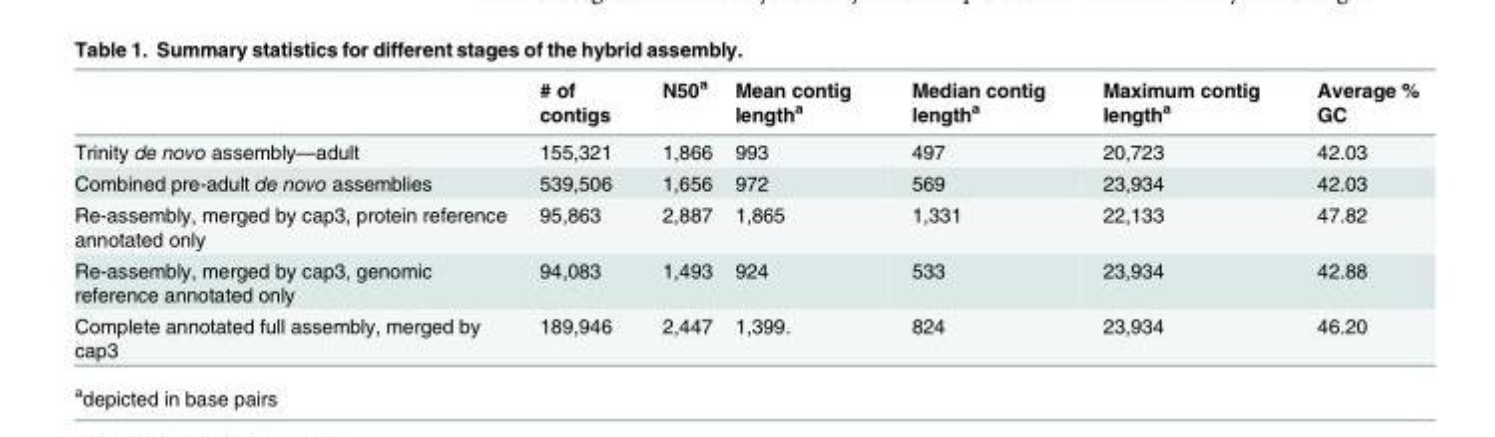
<table><thead><tr><td></td><td># of contigs</td><td>N50<sup>a</sup></td><td>Mean contig length<sup>a</sup></td><td>Median contig length<sup>a</sup></td><td>Maximum contig length<sup>a</sup></td><td>Average % GC</td></tr></thead><tbody><tr><td>Trinity de novo assembly—adult</td><td>155,321</td><td>1,866</td><td>993</td><td>497</td><td>20,723</td><td>42.03</td></tr><tr><td>Combined pre-adult de novo assemblies</td><td>539,506</td><td>1,656</td><td>972</td><td>569</td><td>23,934</td><td>42.03</td></tr><tr><td>Re-assembly, merged by cap3, protein reference annotated only</td><td>95,863</td><td>2,887</td><td>1,865</td><td>1,331</td><td>22,133</td><td>47.82</td></tr><tr><td>Re-assembly, merged by cap3, genomic reference annotated only</td><td>94,083</td><td>1,493</td><td>924</td><td>533</td><td>23,934</td><td>42.88</td></tr><tr><td>Complete annotated full assembly, merged by cap3</td><td>189,946</td><td>2,447</td><td>1,399.</td><td>824</td><td>23,934</td><td>46.20</td></tr></tbody></table>